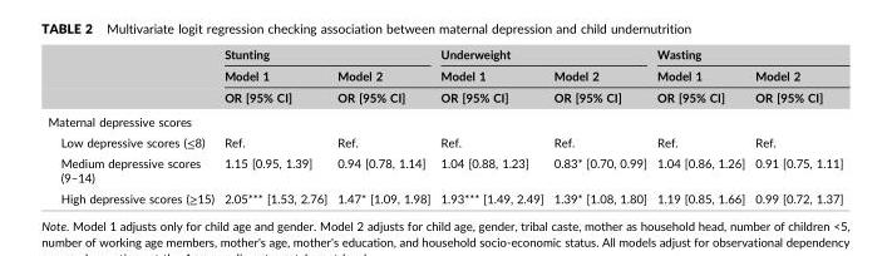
<table><thead><tr><td rowspan="3"></td><td colspan="2">Stunting</td><td colspan="2">Underweight</td><td colspan="2">Wasting</td></tr><tr><td rowspan="2">Model 1 OR [95% CI]</td><td rowspan="2">Model 2 OR [95% CI]</td><td rowspan="2">Model 1 OR [95% CI]</td><td rowspan="2">Model 2 OR [95% CI]</td><td rowspan="2">Model 1 OR [95% CI]</td><td rowspan="2">Model 2 OR [95% CI]</td></tr><tr></tr></thead><tbody><tr><td colspan="7">Maternal depressive scores</td></tr><tr><td>Low depressive scores (≤8)</td><td>Ref.</td><td>Ref.</td><td>Ref.</td><td>Ref.</td><td>Ref.</td><td>Ref.</td></tr><tr><td>Medium depressive scores (9–14)</td><td>1.15 [0.95, 1.39]</td><td>0.94 [0.78, 1.14]</td><td>1.04 [0.88, 1.23]</td><td>0.83* [0.70, 0.99]</td><td>1.04 [0.86, 1.26]</td><td>0.91 [0.75, 1.11]</td></tr><tr><td>High depressive scores (≥15)</td><td>2.05*** [1.53, 2.76]</td><td>1.47* [1.09, 1.98]</td><td>1.93*** [1.49, 2.49]</td><td>1.39* [1.08, 1.80]</td><td>1.19 [0.85, 1.66]</td><td>0.99 [0.72, 1.37]</td></tr></tbody></table>